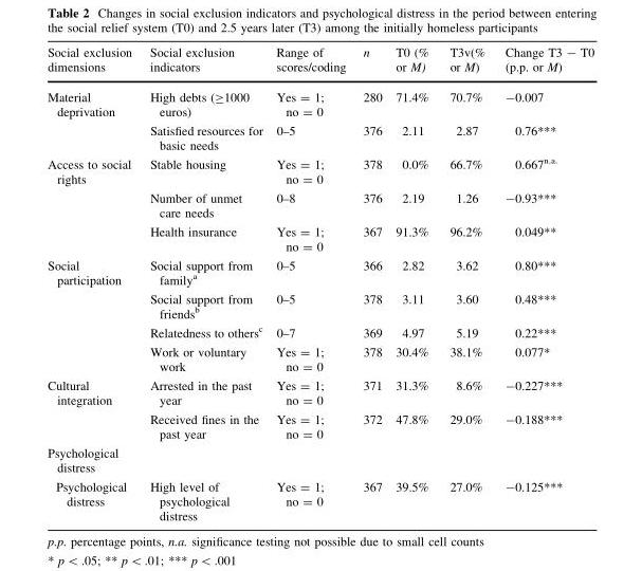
<table><thead><tr><td>Social exclusion dimensions</td><td>Social exclusion indicators</td><td>Range of scores/coding</td><td>n</td><td>T0 (% or M)</td><td>T3v(% or M)</td><td>Change T3 - T0 (p.p. or M)</td></tr></thead><tbody><tr><td rowspan="2">Material deprivation</td><td>High debts (≥1000 euros)</td><td>Yes = 1; no = 0</td><td>280</td><td>71.4%</td><td>70.7%</td><td>-0.007</td></tr><tr><td>Satisfied resources for basic needs</td><td>0–5</td><td>376</td><td>2.11</td><td>2.87</td><td>0.76***</td></tr><tr><td rowspan="3">Access to social rights</td><td>Stable housing</td><td>Yes = 1; no = 0</td><td>378</td><td>0.0%</td><td>66.7%</td><td>0.667<sup>n.a.</sup></td></tr><tr><td>Number of unmet care needs</td><td>0–8</td><td>376</td><td>2.19</td><td>1.26</td><td>-0.93***</td></tr><tr><td>Health insurance</td><td>Yes = 1; no = 0</td><td>367</td><td>91.3%</td><td>96.2%</td><td>0.049**</td></tr><tr><td rowspan="4">Social participation</td><td>Social support from family<sup>a</sup></td><td>0–5</td><td>366</td><td>2.82</td><td>3.62</td><td>0.80***</td></tr><tr><td>Social support from friends<sup>b</sup></td><td>0–5</td><td>378</td><td>3.11</td><td>3.60</td><td>0.48***</td></tr><tr><td>Relatedness to others<sup>c</sup></td><td>0–7</td><td>369</td><td>4.97</td><td>5.19</td><td>0.22***</td></tr><tr><td>Work or voluntary work</td><td>Yes = 1; no = 0</td><td>378</td><td>30.4%</td><td>38.1%</td><td>0.077*</td></tr><tr><td rowspan="2">Cultural integration</td><td>Arrested in the past year</td><td>Yes = 1; no = 0</td><td>371</td><td>31.3%</td><td>8.6%</td><td>-0.227***</td></tr><tr><td>Received fines in the past year</td><td>Yes = 1; no = 0</td><td>372</td><td>47.8%</td><td>29.0%</td><td>-0.188***</td></tr><tr><td colspan="7">Psychological distress</td></tr><tr><td>Psychological distress</td><td>High level of psychological distress</td><td>Yes = 1; no = 0</td><td>367</td><td>39.5%</td><td>27.0%</td><td>-0.125***</td></tr></tbody></table>